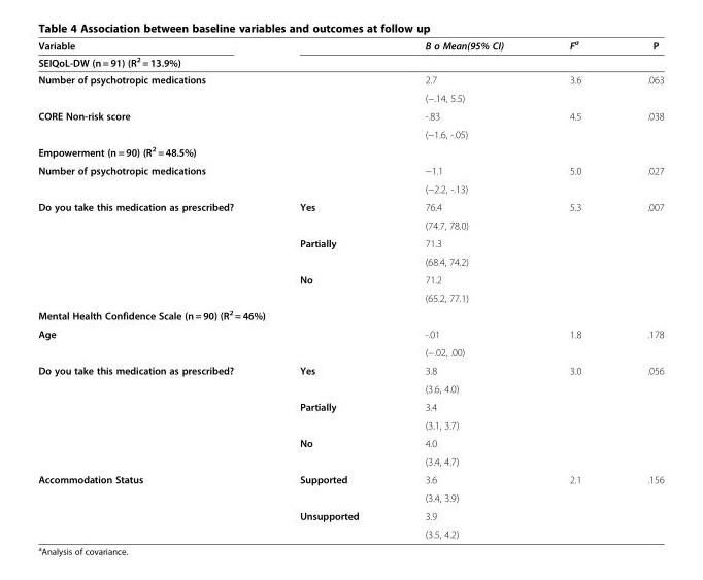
<table><thead><tr><td>Variable</td><td></td><td rowspan="2">B o Mean(95% CI)</td><td rowspan="2">F<sup>a</sup></td><td rowspan="2">P</td></tr><tr><td colspan="2">SEIQoL-DW (n = 91) (R<sup>2</sup> = 13.9%)</td></tr></thead><tbody><tr><td rowspan="2">Number of psychotropic medications</td><td rowspan="2"></td><td>2.7</td><td>3.6</td><td>.063</td></tr><tr><td>(−.14, 5.5)</td><td></td><td></td></tr><tr><td rowspan="2">CORE Non-risk score</td><td></td><td>-.83</td><td>4.5</td><td>.038</td></tr><tr><td></td><td>(−1.6, -.05)</td><td></td><td></td></tr><tr><td colspan="5">Empowerment (n = 90) (R<sup>2</sup> = 48.5%)</td></tr><tr><td rowspan="2">Number of psychotropic medications</td><td rowspan="2"></td><td>−1.1</td><td>5.0</td><td>.027</td></tr><tr><td>(−2.2, -.13)</td><td></td><td></td></tr><tr><td rowspan="6">Do you take this medication as prescribed?</td><td rowspan="2">Yes</td><td>76.4</td><td>5.3</td><td>.007</td></tr><tr><td>(74.7, 78.0)</td><td></td><td></td></tr><tr><td rowspan="2">Partially</td><td>71.3</td><td></td><td></td></tr><tr><td>(68.4, 74.2)</td><td></td><td></td></tr><tr><td rowspan="2">No</td><td>71.2</td><td></td><td></td></tr><tr><td>(65.2, 77.1)</td><td></td><td></td></tr><tr><td colspan="5">Mental Health Confidence Scale (n = 90) (R<sup>2</sup> = 46%)</td></tr><tr><td rowspan="2">Age</td><td></td><td>-.01</td><td>1.8</td><td>.178</td></tr><tr><td></td><td>(−.02, .00)</td><td></td><td></td></tr><tr><td rowspan="6">Do you take this medication as prescribed?</td><td rowspan="2">Yes</td><td>3.8</td><td>3.0</td><td>.056</td></tr><tr><td>(3.6, 4.0)</td><td></td><td></td></tr><tr><td rowspan="2">Partially</td><td>3.4</td><td></td><td></td></tr><tr><td>(3.1, 3.7)</td><td></td><td></td></tr><tr><td rowspan="2">No</td><td>4.0</td><td></td><td></td></tr><tr><td>(3.4, 4.7)</td><td></td><td></td></tr><tr><td rowspan="4">Accommodation Status</td><td>Supported</td><td>3.6</td><td>2.1</td><td>.156</td></tr><tr><td></td><td>(3.4, 3.9)</td><td></td><td></td></tr><tr><td>Unsupported</td><td>3.9</td><td></td><td></td></tr><tr><td></td><td>(3.5, 4.2)</td><td></td><td></td></tr></tbody></table>